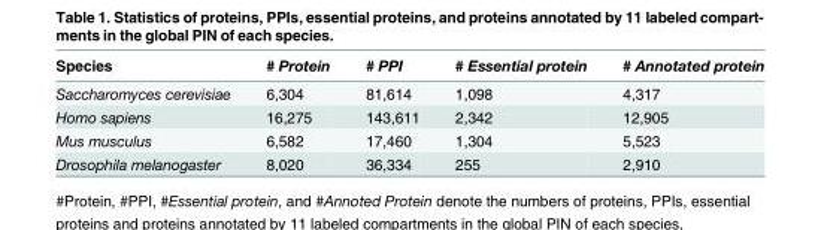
<table><thead><tr><td>Species</td><td># Protein</td><td># PPI</td><td># Essential protein</td><td># Annotated protein</td></tr></thead><tbody><tr><td>Saccharomyces cerevisiae</td><td>6,304</td><td>81,614</td><td>1,098</td><td>4,317</td></tr><tr><td>Homo sapiens</td><td>16,275</td><td>143,611</td><td>2,342</td><td>12,905</td></tr><tr><td>Mus musculus</td><td>6,582</td><td>17,460</td><td>1,304</td><td>5,523</td></tr><tr><td>Drosophila melanogaster</td><td>8,020</td><td>36,334</td><td>255</td><td>2,910</td></tr></tbody></table>